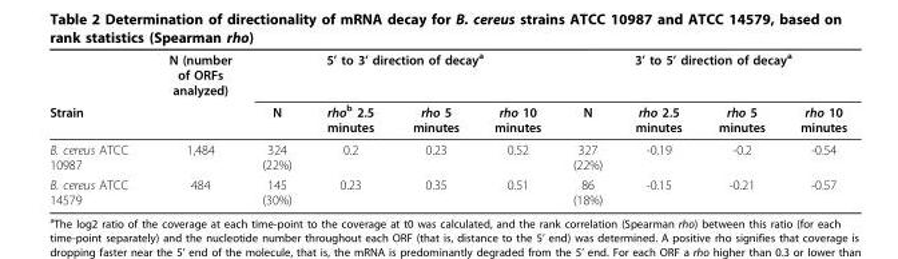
<table><thead><tr><td rowspan="2">Strain</td><td rowspan="2">N (number of ORFs analyzed)</td><td colspan="4">5’ to 3’ direction of decay<sup>a</sup></td><td colspan="4">3’ to 5’ direction of decay<sup>a</sup></td></tr><tr><td>N</td><td>rho<sup>b</sup> 2.5 minutes</td><td>rho 5 minutes</td><td>rho 10 minutes</td><td>N</td><td>rho 2.5 minutes</td><td>rho 5 minutes</td><td>rho 10 minutes</td></tr></thead><tbody><tr><td>B. cereus ATCC 10987</td><td>1,484</td><td>324 (22%)</td><td>0.2</td><td>0.23</td><td>0.52</td><td>327 (22%)</td><td>-0.19</td><td>-0.2</td><td>-0.54</td></tr><tr><td>B. cereus ATCC 14579</td><td>484</td><td>145 (30%)</td><td>0.23</td><td>0.35</td><td>0.51</td><td>86 (18%)</td><td>-0.15</td><td>-0.21</td><td>-0.57</td></tr></tbody></table>